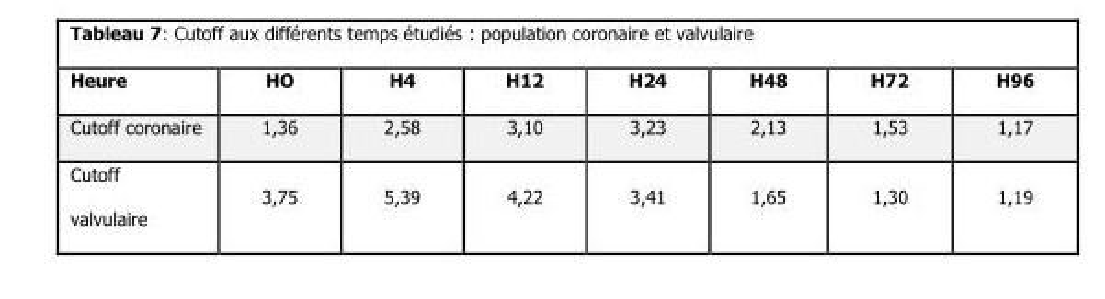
<table><thead><tr><td>Heure</td><td>HO</td><td>H4</td><td>H12</td><td>H24</td><td>H48</td><td>H72</td><td>H96</td></tr></thead><tbody><tr><td>Cutoff coronaire</td><td>1,36</td><td>2,58</td><td>3,10</td><td>3,23</td><td>2,13</td><td>1,53</td><td>1,17</td></tr><tr><td colspan="8">Cutoff</td></tr><tr><td>valvulaire</td><td>3,75</td><td>5,39</td><td>4,22</td><td>3,41</td><td>1,65</td><td>1,30</td><td>1,19</td></tr></tbody></table>